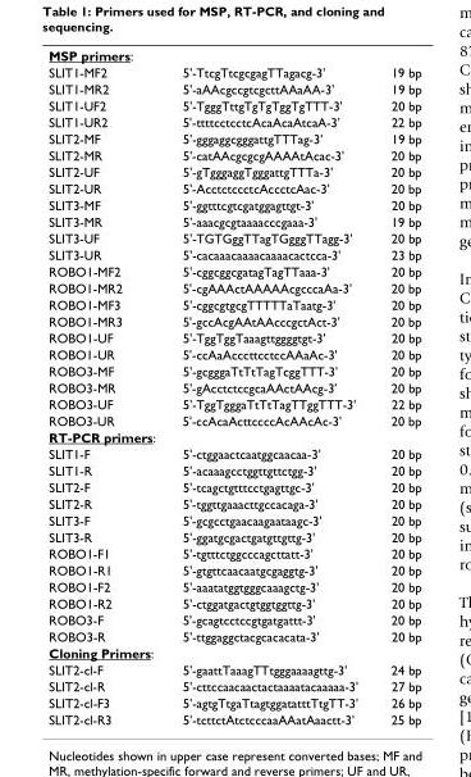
<table><tbody><tr><td colspan="3">MSP primers:</td></tr><tr><td>SLIT1-MF2</td><td>5&#x27;-TtcgTtcgcgagTTagacg-3&#x27;</td><td>19 bp</td></tr><tr><td>SLIT1-MR2</td><td>5&#x27;-aAAcgccgtcgcttAAaAA-3&#x27;</td><td>19 bp</td></tr><tr><td>SLIT1-UF2</td><td>5&#x27;-TgggTttgTgTgTggTgTTT-3&#x27;</td><td>20 bp</td></tr><tr><td>SLIT1-UR2</td><td>5&#x27;-ttttcctcctcAcaAcaAtcaA-3&#x27;</td><td>22 bp</td></tr><tr><td>SLIT2-MF</td><td>5&#x27;-gggaggcgggattgTTTag-3&#x27;</td><td>19 bp</td></tr><tr><td>SLIT2-MR</td><td>5&#x27;-catAAcgcgcgAAAAtAcac-3&#x27;</td><td>20 bp</td></tr><tr><td>SLIT2-UF</td><td>5&#x27;-gTgggaggTgggattgTTTa-3&#x27;</td><td>20 bp</td></tr><tr><td>SLIT2-UR</td><td>5&#x27;-AcctctccctcAccctcAac-3&#x27;</td><td>20 bp</td></tr><tr><td>SLIT3-MF</td><td>5&#x27;-ggtttcgtcgatggagttgt-3&#x27;</td><td>20 bp</td></tr><tr><td>SLIT3-MR</td><td>5&#x27;-aaacgcgtaaaacccgaaa-3&#x27;</td><td>19 bp</td></tr><tr><td>SLIT3-UF</td><td>5&#x27;-TGTGggTTagTGgggTTagg-3&#x27;</td><td>20 bp</td></tr><tr><td>SLIT3-UR</td><td>5&#x27;-cacaaacaaaacaaaacactcca-3&#x27;</td><td>23 bp</td></tr><tr><td>ROBO1-MF2</td><td>5&#x27;-cggcggcgatagTagTTaaa-3&#x27;</td><td>20 bp</td></tr><tr><td>ROBO1-MR2</td><td>5&#x27;-cgAAActAAAAAcgcccaAa-3&#x27;</td><td>20 bp</td></tr><tr><td>ROBO1-MF3</td><td>5&#x27;-cggcgtgcgTTTTTaTaatg-3&#x27;</td><td>20 bp</td></tr><tr><td>ROBO1-MR3</td><td>5&#x27;-gccAcgAAtAAcccgctAct-3&#x27;</td><td>20 bp</td></tr><tr><td>ROBO1-UF</td><td>5&#x27;-TggTggTaaagttggggtgt-3&#x27;</td><td>20 bp</td></tr><tr><td>ROBO1-UR</td><td>5&#x27;-ccAaAcccttcctccAAaAc-3&#x27;</td><td>20 bp</td></tr><tr><td>ROBO3-MF</td><td>5&#x27;-gcgggaTtTtTagTcggTTT-3&#x27;</td><td>20 bp</td></tr><tr><td>ROBO3-MR</td><td>5&#x27;-gAcctctccgcaAActAAcg-3&#x27;</td><td>20 bp</td></tr><tr><td>ROBO3-UF</td><td>5&#x27;-TggTgggaTtTtTagTTggTTT-3&#x27;</td><td>22 bp</td></tr><tr><td>ROBO3-UR</td><td>5&#x27;-ccAcaActtccccAcAAcAc-3&#x27;</td><td>20 bp</td></tr><tr><td colspan="3">RT-PCR primers:</td></tr><tr><td>SLIT1-F</td><td>5&#x27;-ctggaactcaatggcaacaa-3&#x27;</td><td>20 bp</td></tr><tr><td>SLIT1-R</td><td>5&#x27;-acaaagcctggttgttctgg-3&#x27;</td><td>20 bp</td></tr><tr><td>SLIT2-F</td><td>5&#x27;-tcagctgtttcctgagttgc-3&#x27;</td><td>20 bp</td></tr><tr><td>SLIT2-R</td><td>5&#x27;-tggttgaaacttgccacaga-3&#x27;</td><td>20 bp</td></tr><tr><td>SLIT3-F</td><td>5&#x27;-gcgcctgaacaagaataagc-3&#x27;</td><td>20 bp</td></tr><tr><td>SLIT3-R</td><td>5&#x27;-ggatgcgactgatgttgttg-3&#x27;</td><td>20 bp</td></tr><tr><td>ROBO1-F1</td><td>5&#x27;-tgtttctggcccagcttatt-3&#x27;</td><td>20 bp</td></tr><tr><td>ROBO1-R1</td><td>5&#x27;-gtgttcaacaatgcgaggtg-3&#x27;</td><td>20 bp</td></tr><tr><td>ROBO1-F2</td><td>5&#x27;-aaatatggtgggcaaagctg-3&#x27;</td><td>20 bp</td></tr><tr><td>ROBO1-R2</td><td>5&#x27;-ctggatgactgtggtggttg-3&#x27;</td><td>20 bp</td></tr><tr><td>ROBO3-F</td><td>5&#x27;-gcagtcctccgtgatgattt-3&#x27;</td><td>20 bp</td></tr><tr><td>ROBO3-R</td><td>5&#x27;-ttggaggctacgcacacata-3&#x27;</td><td>20 bp</td></tr><tr><td colspan="3">Cloning Primers:</td></tr><tr><td>SLIT2-cl-F</td><td>5&#x27;-gaattTaaagTTtgggaaaagttg-3&#x27;</td><td>24 bp</td></tr><tr><td>SLIT2-cl-R</td><td>5&#x27;-cttccaacaactactaaaatacaaaaa-3&#x27;</td><td>27 bp</td></tr><tr><td>SLIT2-cl-F3</td><td>5&#x27;-agtgTtgaTtagtggatatttTtgTT-3&#x27;</td><td>26 bp</td></tr><tr><td>SLIT2-cl-R3</td><td>5&#x27;-tcttctAtctcccaaAAatAaactt-3&#x27;</td><td>25 bp</td></tr></tbody></table>